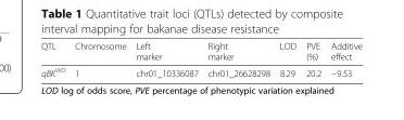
<table><thead><tr><td>QTL</td><td>Chromosome</td><td>Left marker</td><td>Right marker</td><td>LOD</td><td>PVE (%)</td><td>Additive effect</td></tr></thead><tbody><tr><td>qBK<sup>WD</sup></td><td>1</td><td>chr01_10336087</td><td>chr01_26628298</td><td>8.29</td><td>20.2</td><td>−9.53</td></tr></tbody></table>